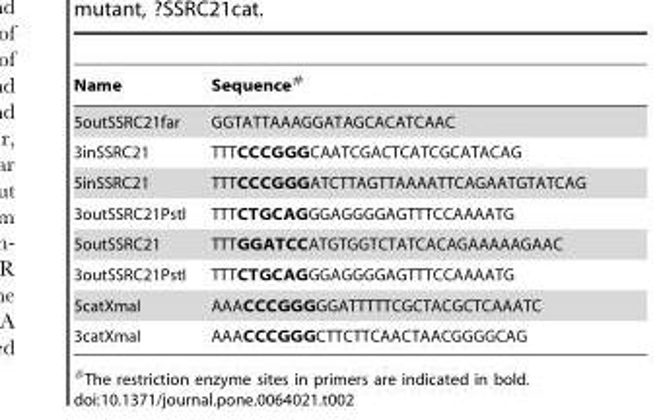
<table><thead><tr><td>Name</td><td>Sequence#</td></tr></thead><tbody><tr><td>5outSSRC21far</td><td>GGTATTAAAGGATAGCACATCAAC</td></tr><tr><td>3inSSRC21</td><td>TTTCCCGGGCAATCGACTCATCGCATACAG</td></tr><tr><td>5inSSRC21</td><td>TTTCCCGGGATCTTAGTTAAAATTCAGAATGTATCAG</td></tr><tr><td>3outSSRC21PstI</td><td>TTTCTGCAGGGAGGGGAGTTTCCAAAATG</td></tr><tr><td>5outSSRC21</td><td>TTTGGATCCATGTGGTCTATCACAGAAAAAGAAC</td></tr><tr><td>3outSSRC21PstI</td><td>TTTCTGCAGGGAGGGGAGTTTCCAAAATG</td></tr><tr><td>5catXmaI</td><td>AAACCCGGGGGATTTTTCGCTACGCTCAAATC</td></tr><tr><td>3catXmaI</td><td>AAACCCGGGCTTCTTCAACTAACGGGGCAG</td></tr></tbody></table>